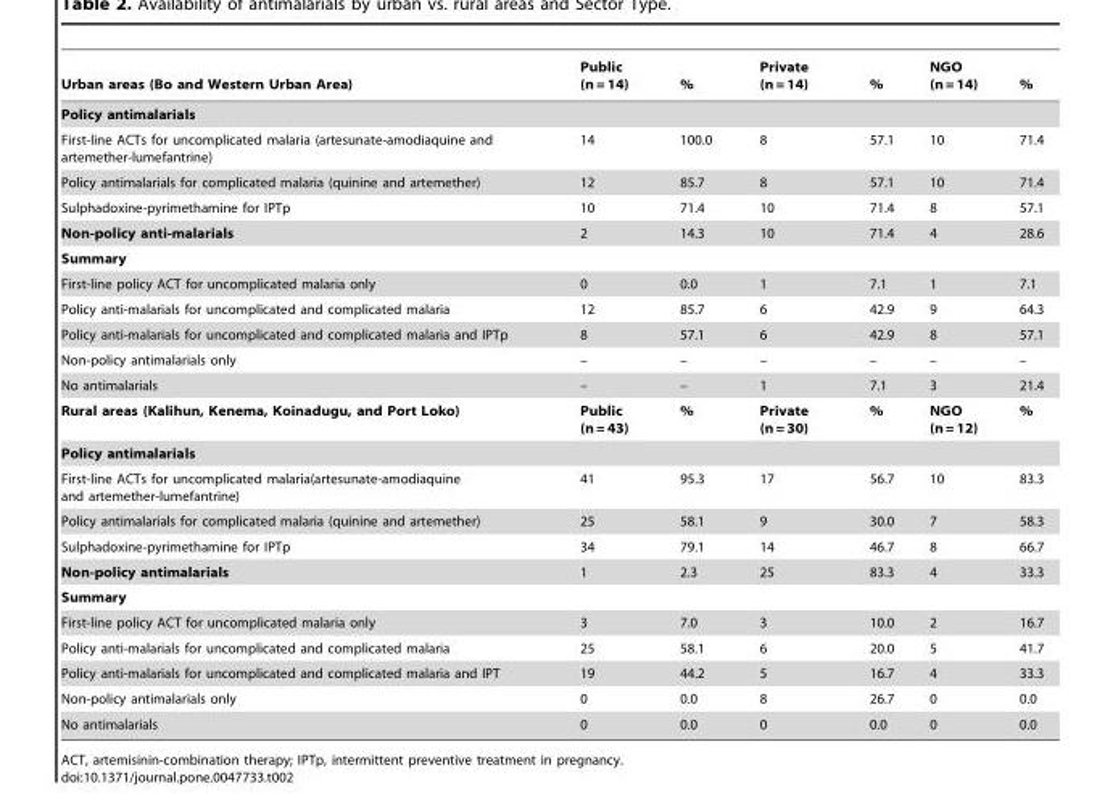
<table><thead><tr><td>Urban areas (Bo and Western Urban Area)</td><td>Public (n = 14)</td><td>%</td><td>Private (n = 14)</td><td>%</td><td>NGO (n = 14)</td><td>%</td></tr></thead><tbody><tr><td colspan="7">Policy antimalarials</td></tr><tr><td>First-line ACTs for uncomplicated malaria (artesunate-amodiaquine and artemether-lumefantrine)</td><td>14</td><td>100.0</td><td>8</td><td>57.1</td><td>10</td><td>71.4</td></tr><tr><td>Policy antimalarials for complicated malaria (quinine and artemether)</td><td>12</td><td>85.7</td><td>8</td><td>57.1</td><td>10</td><td>71.4</td></tr><tr><td>Sulphadoxine-pyrimethamine for IPTp</td><td>10</td><td>71.4</td><td>10</td><td>71.4</td><td>8</td><td>57.1</td></tr><tr><td>Non-policy anti-malarials</td><td>2</td><td>14.3</td><td>10</td><td>71.4</td><td>4</td><td>28.6</td></tr><tr><td colspan="7">Summary</td></tr><tr><td>First-line policy ACT for uncomplicated malaria only</td><td>0</td><td>0.0</td><td>1</td><td>7.1</td><td>1</td><td>7.1</td></tr><tr><td>Policy anti-malarials for uncomplicated and complicated malaria</td><td>12</td><td>85.7</td><td>6</td><td>42.9</td><td>9</td><td>64.3</td></tr><tr><td>Policy anti-malarials for uncomplicated and complicated malaria and IPTp</td><td>8</td><td>57.1</td><td>6</td><td>42.9</td><td>8</td><td>57.1</td></tr><tr><td>Non-policy antimalarials only</td><td>–</td><td>–</td><td>–</td><td>–</td><td>–</td><td>–</td></tr><tr><td>No antimalarials</td><td>–</td><td>–</td><td>1</td><td>7.1</td><td>3</td><td>21.4</td></tr><tr><td>Rural areas (Kalihun, Kenema, Koinadugu, and Port Loko)</td><td>Public (n = 43)</td><td>%</td><td>Private (n = 30)</td><td>%</td><td>NGO (n = 12)</td><td>%</td></tr><tr><td colspan="7">Policy antimalarials</td></tr><tr><td>First-line ACTs for uncomplicated malaria(artesunate-amodiaquine and artemether-lumefantrine)</td><td>41</td><td>95.3</td><td>17</td><td>56.7</td><td>10</td><td>83.3</td></tr><tr><td>Policy antimalarials for complicated malaria (quinine and artemether)</td><td>25</td><td>58.1</td><td>9</td><td>30.0</td><td>7</td><td>58.3</td></tr><tr><td>Sulphadoxine-pyrimethamine for IPTp</td><td>34</td><td>79.1</td><td>14</td><td>46.7</td><td>8</td><td>66.7</td></tr><tr><td>Non-policy antimalarials</td><td>1</td><td>2.3</td><td>25</td><td>83.3</td><td>4</td><td>33.3</td></tr><tr><td colspan="7">Summary</td></tr><tr><td>First-line policy ACT for uncomplicated malaria only</td><td>3</td><td>7.0</td><td>3</td><td>10.0</td><td>2</td><td>16.7</td></tr><tr><td>Policy anti-malarials for uncomplicated and complicated malaria</td><td>25</td><td>58.1</td><td>6</td><td>20.0</td><td>5</td><td>41.7</td></tr><tr><td>Policy anti-malarials for uncomplicated and complicated malaria and IPT</td><td>19</td><td>44.2</td><td>5</td><td>16.7</td><td>4</td><td>33.3</td></tr><tr><td>Non-policy antimalarials only</td><td>0</td><td>0.0</td><td>8</td><td>26.7</td><td>0</td><td>0.0</td></tr><tr><td>No antimalarials</td><td>0</td><td>0.0</td><td>0</td><td>0.0</td><td>0</td><td>0.0</td></tr></tbody></table>